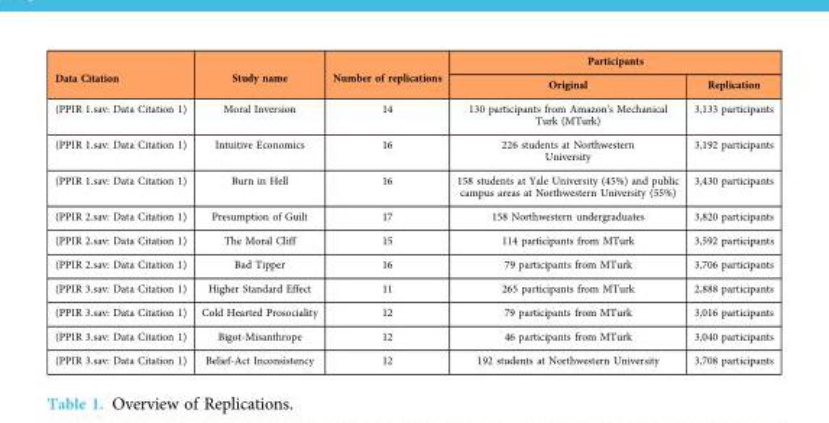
<table><thead><tr><td rowspan="2">Data Citation</td><td rowspan="2">Study name</td><td rowspan="2">Number of replications</td><td colspan="2">Participants</td></tr><tr><td>Original</td><td>Replication</td></tr></thead><tbody><tr><td>(PPIR 1.sav: Data Citation 1)</td><td>Moral Inversion</td><td>14</td><td>130 participants from Amazon&#x27;s Mechanical Turk (MTurk)</td><td>3,133 participants</td></tr><tr><td>(PPIR 1.sav: Data Citation 1)</td><td>Intuitive Economics</td><td>16</td><td>226 students at Northwestern University</td><td>3,192 participants</td></tr><tr><td>(PPIR 1.sav: Data Citation 1)</td><td>Burn in Hell</td><td>16</td><td>158 students at Yale University (45%) and public campus areas at Northwestern University (55%)</td><td>3,430 participants</td></tr><tr><td>(PPIR 2.sav: Data Citation 1)</td><td>Presumption of Guilt</td><td>17</td><td>158 Northwestern undergraduates</td><td>3,820 participants</td></tr><tr><td>(PPIR 2.sav: Data Citation 1)</td><td>The Moral Cliff</td><td>15</td><td>114 participants from MTurk</td><td>3,592 participants</td></tr><tr><td>(PPIR 2.sav: Data Citation 1)</td><td>Bad Tipper</td><td>16</td><td>79 participants from MTurk</td><td>3,706 participants</td></tr><tr><td>(PPIR 3.sav: Data Citation 1)</td><td>Higher Standard Effect</td><td>11</td><td>265 participants from MTurk</td><td>2,888 participants</td></tr><tr><td>(PPIR 3.sav: Data Citation 1)</td><td>Cold Hearted Prosociality</td><td>12</td><td>79 participants from MTurk</td><td>3,016 participants</td></tr><tr><td>(PPIR 3.sav: Data Citation 1)</td><td>Bigot-Misanthrope</td><td>12</td><td>46 participants from MTurk</td><td>3,040 participants</td></tr><tr><td>(PPIR 3.sav: Data Citation 1)</td><td>Belief-Act Inconsistency</td><td>12</td><td>192 students at Northwestern University</td><td>3,708 participants</td></tr></tbody></table>